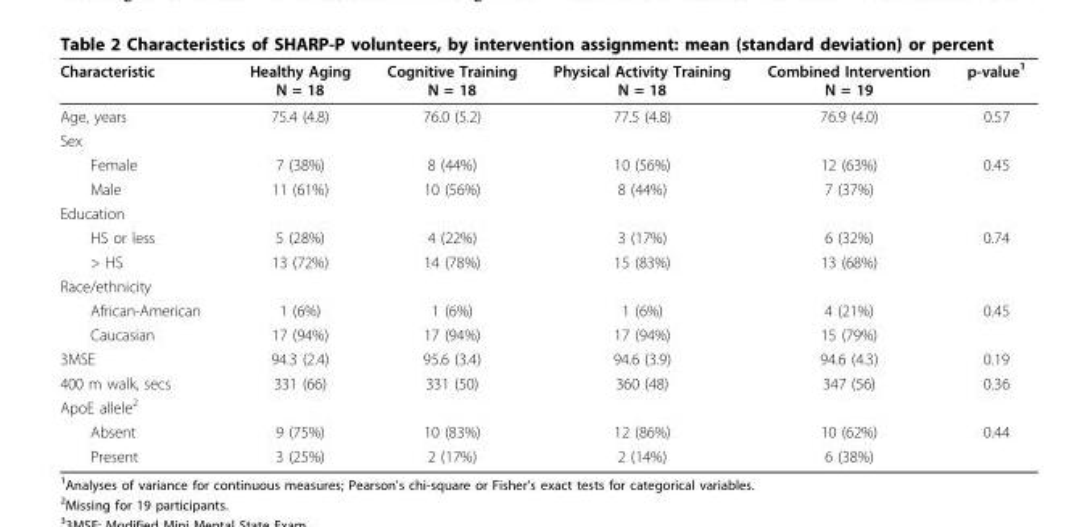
<table><thead><tr><td>Characteristic</td><td>Healthy Aging N = 18</td><td>Cognitive Training N = 18</td><td>Physical Activity Training N = 18</td><td>Combined Intervention N = 19</td><td>p-value<sup>1</sup></td></tr></thead><tbody><tr><td>Age, years</td><td>75.4 (4.8)</td><td>76.0 (5.2)</td><td>77.5 (4.8)</td><td>76.9 (4.0)</td><td>0.57</td></tr><tr><td colspan="6">Sex</td></tr><tr><td>Female</td><td>7 (38%)</td><td>8 (44%)</td><td>10 (56%)</td><td>12 (63%)</td><td>0.45</td></tr><tr><td>Male</td><td>11 (61%)</td><td>10 (56%)</td><td>8 (44%)</td><td>7 (37%)</td><td></td></tr><tr><td colspan="6">Education</td></tr><tr><td>HS or less</td><td>5 (28%)</td><td>4 (22%)</td><td>3 (17%)</td><td>6 (32%)</td><td>0.74</td></tr><tr><td>&gt; HS</td><td>13 (72%)</td><td>14 (78%)</td><td>15 (83%)</td><td>13 (68%)</td><td></td></tr><tr><td colspan="6">Race/ethnicity</td></tr><tr><td>African-American</td><td>1 (6%)</td><td>1 (6%)</td><td>1 (6%)</td><td>4 (21%)</td><td>0.45</td></tr><tr><td>Caucasian</td><td>17 (94%)</td><td>17 (94%)</td><td>17 (94%)</td><td>15 (79%)</td><td></td></tr><tr><td>3MSE</td><td>94.3 (2.4)</td><td>95.6 (3.4)</td><td>94.6 (3.9)</td><td>94.6 (4.3)</td><td>0.19</td></tr><tr><td>400 m walk, secs</td><td>331 (66)</td><td>331 (50)</td><td>360 (48)</td><td>347 (56)</td><td>0.36</td></tr><tr><td colspan="6">ApoE allele<sup>2</sup></td></tr><tr><td>Absent</td><td>9 (75%)</td><td>10 (83%)</td><td>12 (86%)</td><td>10 (62%)</td><td>0.44</td></tr><tr><td>Present</td><td>3 (25%)</td><td>2 (17%)</td><td>2 (14%)</td><td>6 (38%)</td><td></td></tr></tbody></table>